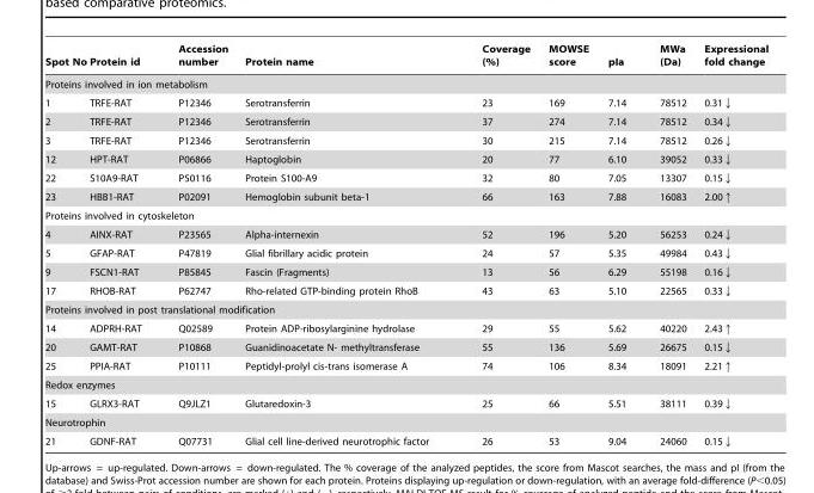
<table><thead><tr><td>Spot No</td><td>Protein id</td><td>Accession number</td><td>Protein name</td><td>Coverage (%)</td><td>MOWSE score</td><td>pIa</td><td>MWa (Da)</td><td>Expressional fold change</td></tr></thead><tbody><tr><td colspan="9">Proteins involved in ion metabolism</td></tr><tr><td>1</td><td>TRFE-RAT</td><td>P12346</td><td>Serotransferrin</td><td>23</td><td>169</td><td>7.14</td><td>78512</td><td>0.31↓</td></tr><tr><td>2</td><td>TRFE-RAT</td><td>P12346</td><td>Serotransferrin</td><td>37</td><td>274</td><td>7.14</td><td>78512</td><td>0.34↓</td></tr><tr><td>3</td><td>TRFE-RAT</td><td>P12346</td><td>Serotransferrin</td><td>30</td><td>215</td><td>7.14</td><td>78512</td><td>0.26↓</td></tr><tr><td>12</td><td>HPT-RAT</td><td>P06866</td><td>Haptoglobin</td><td>20</td><td>77</td><td>6.10</td><td>39052</td><td>0.33↓</td></tr><tr><td>22</td><td>S10A9-RAT</td><td>P50116</td><td>Protein S100-A9</td><td>32</td><td>80</td><td>7.05</td><td>13307</td><td>0.15↓</td></tr><tr><td>23</td><td>HBB1-RAT</td><td>P02091</td><td>Hemoglobin subunit beta-1</td><td>66</td><td>163</td><td>7.88</td><td>16083</td><td>2.00↑</td></tr><tr><td colspan="9">Proteins involved in cytoskeleton</td></tr><tr><td>4</td><td>AINX-RAT</td><td>P23565</td><td>Alpha-internexin</td><td>52</td><td>196</td><td>5.20</td><td>56253</td><td>0.24↓</td></tr><tr><td>5</td><td>GFAP-RAT</td><td>P47819</td><td>Glial fibrillary acidic protein</td><td>24</td><td>57</td><td>5.35</td><td>49984</td><td>0.43↓</td></tr><tr><td>9</td><td>FSCN1-RAT</td><td>P85845</td><td>Fascin (Fragments)</td><td>13</td><td>56</td><td>6.29</td><td>55198</td><td>0.16↓</td></tr><tr><td>17</td><td>RHOB-RAT</td><td>P62747</td><td>Rho-related GTP-binding protein RhoB</td><td>43</td><td>63</td><td>5.10</td><td>22565</td><td>0.33↓</td></tr><tr><td colspan="9">Proteins involved in post translational modification</td></tr><tr><td>14</td><td>ADPRH-RAT</td><td>Q02589</td><td>Protein ADP-ribosylarginine hydrolase</td><td>29</td><td>55</td><td>5.62</td><td>40220</td><td>2.43↑</td></tr><tr><td>20</td><td>GAMT-RAT</td><td>P10868</td><td>Guanidinoacetate N- methyltransferase</td><td>55</td><td>136</td><td>5.69</td><td>26675</td><td>0.15↓</td></tr><tr><td>25</td><td>PPIA-RAT</td><td>P10111</td><td>Peptidyl-prolyl cis-trans isomerase A</td><td>74</td><td>106</td><td>8.34</td><td>18091</td><td>2.21↑</td></tr><tr><td colspan="9">Redox enzymes</td></tr><tr><td>15</td><td>GLRX3-RAT</td><td>Q9JLZ1</td><td>Glutaredoxin-3</td><td>25</td><td>66</td><td>5.51</td><td>38111</td><td>0.39↓</td></tr><tr><td colspan="9">Neurotrophin</td></tr><tr><td>21</td><td>GDNF-RAT</td><td>Q07731</td><td>Glial cell line-derived neurotrophic factor</td><td>26</td><td>53</td><td>9.04</td><td>24060</td><td>0.15↓</td></tr></tbody></table>